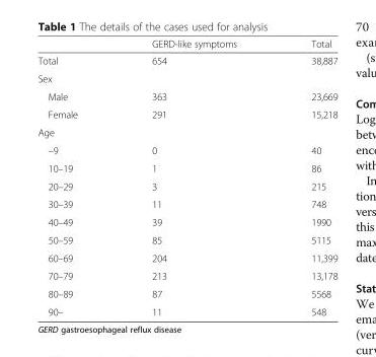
<table><thead><tr><td></td><td>GERD-like symptoms</td><td>Total</td></tr></thead><tbody><tr><td>Total</td><td>654</td><td>38,887</td></tr><tr><td colspan="3">Sex</td></tr><tr><td>Male</td><td>363</td><td>23,669</td></tr><tr><td>Female</td><td>291</td><td>15,218</td></tr><tr><td colspan="3">Age</td></tr><tr><td>–9</td><td>0</td><td>40</td></tr><tr><td>10–19</td><td>1</td><td>86</td></tr><tr><td>20–29</td><td>3</td><td>215</td></tr><tr><td>30–39</td><td>11</td><td>748</td></tr><tr><td>40–49</td><td>39</td><td>1990</td></tr><tr><td>50–59</td><td>85</td><td>5115</td></tr><tr><td>60–69</td><td>204</td><td>11,399</td></tr><tr><td>70–79</td><td>213</td><td>13,178</td></tr><tr><td>80–89</td><td>87</td><td>5568</td></tr><tr><td>90–</td><td>11</td><td>548</td></tr></tbody></table>